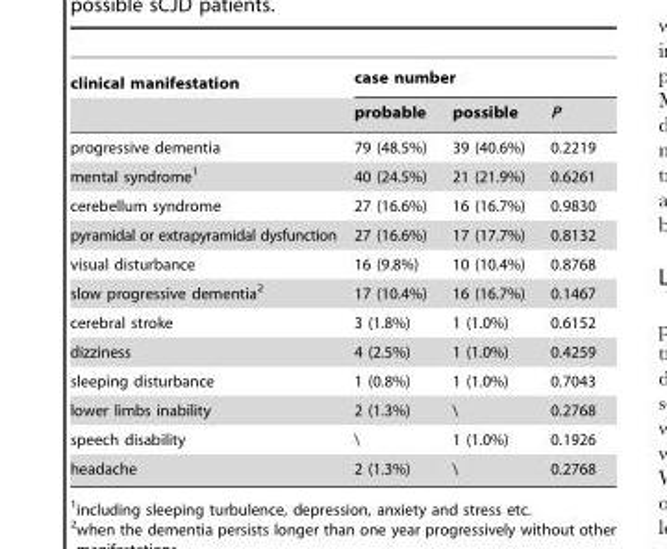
<table><thead><tr><td rowspan="2">clinical manifestation</td><td colspan="3">case number</td></tr><tr><td>probable</td><td>possible</td><td>P</td></tr></thead><tbody><tr><td>progressive dementia</td><td>79 (48.5%)</td><td>39 (40.6%)</td><td>0.2219</td></tr><tr><td>mental syndrome<sup>1</sup></td><td>40 (24.5%)</td><td>21 (21.9%)</td><td>0.6261</td></tr><tr><td>cerebellum syndrome</td><td>27 (16.6%)</td><td>16 (16.7%)</td><td>0.9830</td></tr><tr><td>pyramidal or extrapyramidal dysfunction</td><td>27 (16.6%)</td><td>17 (17.7%)</td><td>0.8132</td></tr><tr><td>visual disturbance</td><td>16 (9.8%)</td><td>10 (10.4%)</td><td>0.8768</td></tr><tr><td>slow progressive dementia<sup>2</sup></td><td>17 (10.4%)</td><td>16 (16.7%)</td><td>0.1467</td></tr><tr><td>cerebral stroke</td><td>3 (1.8%)</td><td>1 (1.0%)</td><td>0.6152</td></tr><tr><td>dizziness</td><td>4 (2.5%)</td><td>1 (1.0%)</td><td>0.4259</td></tr><tr><td>sleeping disturbance</td><td>1 (0.8%)</td><td>1 (1.0%)</td><td>0.7043</td></tr><tr><td>lower limbs inability</td><td>2 (1.3%)</td><td>\</td><td>0.2768</td></tr><tr><td>speech disability</td><td>\</td><td>1 (1.0%)</td><td>0.1926</td></tr><tr><td>headache</td><td>2 (1.3%)</td><td>\</td><td>0.2768</td></tr></tbody></table>